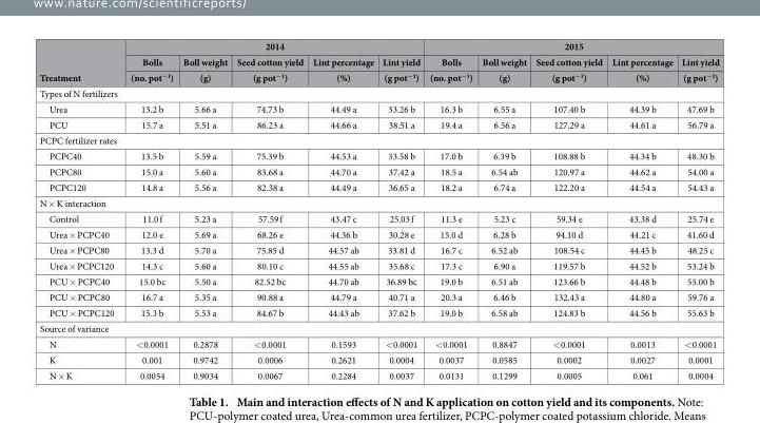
<table><thead><tr><td rowspan="3">Treatment</td><td colspan="5">2014</td><td colspan="5">2015</td></tr><tr><td rowspan="2">Bolls (no. pot<sup>−1</sup>)</td><td rowspan="2">Boll weight (g)</td><td rowspan="2">Seed cotton yield (g pot<sup>−1</sup>)</td><td rowspan="2">Lint percentage (%)</td><td rowspan="2">Lint yield (g pot<sup>−1</sup>)</td><td rowspan="2">Bolls (no. pot<sup>−1</sup>)</td><td rowspan="2">Boll weight (g)</td><td rowspan="2">Seed cotton yield (g pot<sup>−1</sup>)</td><td rowspan="2">Lint percentage (%)</td><td rowspan="2">Lint yield (g pot<sup>−1</sup>)</td></tr><tr></tr></thead><tbody><tr><td colspan="11">Types of N fertilizers</td></tr><tr><td>Urea</td><td>13.2 b</td><td>5.66 a</td><td>74.73 b</td><td>44.49 a</td><td>33.26 b</td><td>16.3 b</td><td>6.55 a</td><td>107.40 b</td><td>44.39 b</td><td>47.69 b</td></tr><tr><td>PCU</td><td>15.7 a</td><td>5.51 a</td><td>86.23 a</td><td>44.66 a</td><td>38.51 a</td><td>19.4 a</td><td>6.56 a</td><td>127.29 a</td><td>44.61 a</td><td>56.79 a</td></tr><tr><td colspan="11">PCPC fertilizer rates</td></tr><tr><td>PCPC40</td><td>13.5 b</td><td>5.59 a</td><td>75.39 b</td><td>44.53 a</td><td>33.58 b</td><td>17.0 b</td><td>6.39 b</td><td>108.88 b</td><td>44.34 b</td><td>48.30 b</td></tr><tr><td>PCPC80</td><td>15.0 a</td><td>5.60 a</td><td>83.68 a</td><td>44.70 a</td><td>37.42 a</td><td>18.5 a</td><td>6.54 ab</td><td>120.97 a</td><td>44.62 a</td><td>54.00 a</td></tr><tr><td>PCPC120</td><td>14.8 a</td><td>5.56 a</td><td>82.38 a</td><td>44.49 a</td><td>36.65 a</td><td>18.2 a</td><td>6.74 a</td><td>122.20 a</td><td>44.54 a</td><td>54.43 a</td></tr><tr><td colspan="11">N × K interaction</td></tr><tr><td>Control</td><td>11.0 f</td><td>5.23 a</td><td>57.59 f</td><td>43.47 c</td><td>25.03 f</td><td>11.3 e</td><td>5.23 c</td><td>59.34 e</td><td>43.38 d</td><td>25.74 e</td></tr><tr><td>Urea × PCPC40</td><td>12.0 e</td><td>5.69 a</td><td>68.26 e</td><td>44.36 b</td><td>30.28 e</td><td>15.0 d</td><td>6.28 b</td><td>94.10 d</td><td>44.21 c</td><td>41.60 d</td></tr><tr><td>Urea × PCPC80</td><td>13.3 d</td><td>5.70 a</td><td>75.85 d</td><td>44.57 ab</td><td>33.81 d</td><td>16.7 c</td><td>6.52 ab</td><td>108.54 c</td><td>44.45 b</td><td>48.25 c</td></tr><tr><td>Urea × PCPC120</td><td>14.3 c</td><td>5.60 a</td><td>80.10 c</td><td>44.55 ab</td><td>35.68 c</td><td>17.3 c</td><td>6.90 a</td><td>119.57 b</td><td>44.52 b</td><td>53.24 b</td></tr><tr><td>PCU × PCPC40</td><td>15.0 bc</td><td>5.50 a</td><td>82.52 bc</td><td>44.70 ab</td><td>36.89 bc</td><td>19.0 b</td><td>6.51 ab</td><td>123.66 b</td><td>44.48 b</td><td>55.00 b</td></tr><tr><td>PCU × PCPC80</td><td>16.7 a</td><td>5.35 a</td><td>90.88 a</td><td>44.79 a</td><td>40.71 a</td><td>20.3 a</td><td>6.46 b</td><td>132.43 a</td><td>44.80 a</td><td>59.76 a</td></tr><tr><td>PCU × PCPC120</td><td>15.3 b</td><td>5.53 a</td><td>84.67 b</td><td>44.43 ab</td><td>37.62 b</td><td>19.0 b</td><td>6.58 ab</td><td>124.83 b</td><td>44.56 b</td><td>55.63 b</td></tr><tr><td colspan="11">Source of variance</td></tr><tr><td>N</td><td>&lt; 0.0001</td><td>0.2878</td><td>&lt; 0.0001</td><td>0.1593</td><td>&lt; 0.0001</td><td>&lt; 0.0001</td><td>0.8847</td><td>&lt; 0.0001</td><td>0.0013</td><td>&lt; 0.0001</td></tr><tr><td>K</td><td>0.001</td><td>0.9742</td><td>0.0006</td><td>0.2621</td><td>0.0004</td><td>0.0037</td><td>0.0585</td><td>0.0002</td><td>0.0027</td><td>0.0001</td></tr><tr><td>N × K</td><td>0.0054</td><td>0.9034</td><td>0.0067</td><td>0.2284</td><td>0.0037</td><td>0.0131</td><td>0.1299</td><td>0.0005</td><td>0.061</td><td>0.0004</td></tr></tbody></table>